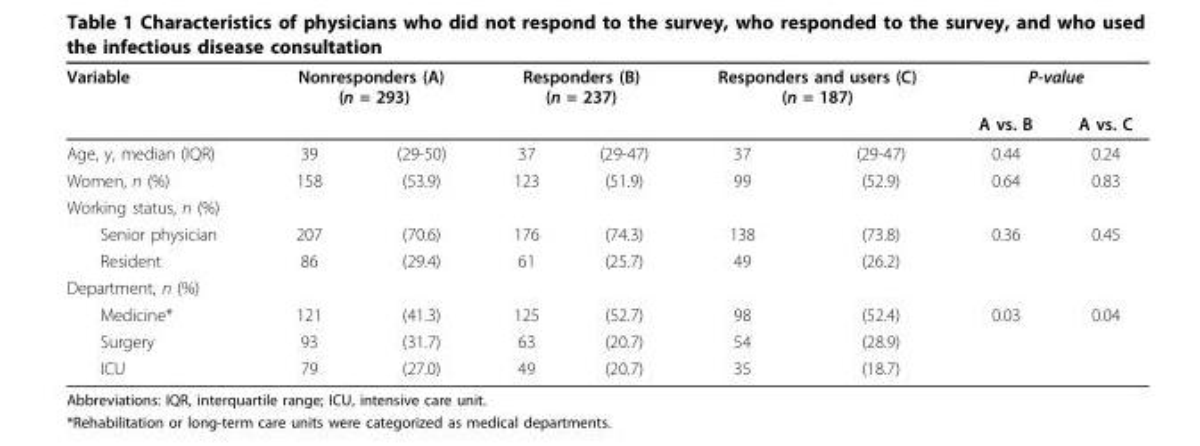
<table><thead><tr><td rowspan="2">Variable</td><td colspan="2">Nonresponders (A) (n = 293)</td><td colspan="2">Responders (B) (n = 237)</td><td colspan="2">Responders and users (C) (n = 187)</td><td colspan="2">P-value</td></tr><tr><td></td><td></td><td></td><td></td><td></td><td></td><td>A vs. B</td><td>A vs. C</td></tr></thead><tbody><tr><td>Age, y, median (IQR)</td><td>39</td><td>(29-50)</td><td>37</td><td>(29-47)</td><td>37</td><td>(29-47)</td><td>0.44</td><td>0.24</td></tr><tr><td>Women, n (%)</td><td>158</td><td>(53.9)</td><td>123</td><td>(51.9)</td><td>99</td><td>(52.9)</td><td>0.64</td><td>0.83</td></tr><tr><td colspan="9">Working status, n (%)</td></tr><tr><td>Senior physician</td><td>207</td><td>(70.6)</td><td>176</td><td>(74.3)</td><td>138</td><td>(73.8)</td><td>0.36</td><td>0.45</td></tr><tr><td>Resident</td><td>86</td><td>(29.4)</td><td>61</td><td>(25.7)</td><td>49</td><td>(26.2)</td><td></td><td></td></tr><tr><td colspan="9">Department, n (%)</td></tr><tr><td>Medicine*</td><td>121</td><td>(41.3)</td><td>125</td><td>(52.7)</td><td>98</td><td>(52.4)</td><td>0.03</td><td>0.04</td></tr><tr><td>Surgery</td><td>93</td><td>(31.7)</td><td>63</td><td>(20.7)</td><td>54</td><td>(28.9)</td><td></td><td></td></tr><tr><td>ICU</td><td>79</td><td>(27.0)</td><td>49</td><td>(20.7)</td><td>35</td><td>(18.7)</td><td></td><td></td></tr></tbody></table>